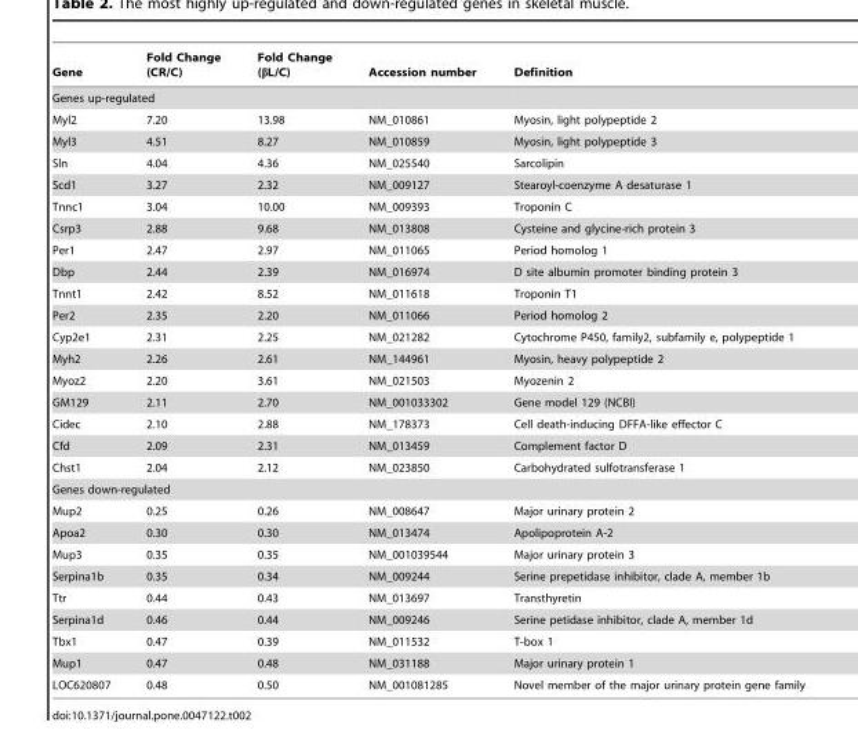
<table><thead><tr><td>Gene</td><td>Fold Change (CR/C)</td><td>Fold Change (βL/C)</td><td>Accession number</td><td>Definition</td></tr></thead><tbody><tr><td colspan="5">Genes up-regulated</td></tr><tr><td>Myl2</td><td>7.20</td><td>13.98</td><td>NM_010861</td><td>Myosin, light polypeptide 2</td></tr><tr><td>Myl3</td><td>4.51</td><td>8.27</td><td>NM_010859</td><td>Myosin, light polypeptide 3</td></tr><tr><td>Sln</td><td>4.04</td><td>4.36</td><td>NM_025540</td><td>Sarcolipin</td></tr><tr><td>Scd1</td><td>3.27</td><td>2.32</td><td>NM_009127</td><td>Stearoyl-coenzyme A desaturase 1</td></tr><tr><td>Tnnc1</td><td>3.04</td><td>10.00</td><td>NM_009393</td><td>Troponin C</td></tr><tr><td>Csrp3</td><td>2.88</td><td>9.68</td><td>NM_013808</td><td>Cysteine and glycine-rich protein 3</td></tr><tr><td>Per1</td><td>2.47</td><td>2.97</td><td>NM_011065</td><td>Period homolog 1</td></tr><tr><td>Dbp</td><td>2.44</td><td>2.39</td><td>NM_016974</td><td>D site albumin promoter binding protein 3</td></tr><tr><td>Tnnt1</td><td>2.42</td><td>8.52</td><td>NM_011618</td><td>Troponin T1</td></tr><tr><td>Per2</td><td>2.35</td><td>2.20</td><td>NM_011066</td><td>Period homolog 2</td></tr><tr><td>Cyp2e1</td><td>2.31</td><td>2.25</td><td>NM_021282</td><td>Cytochrome P450, family2, subfamily e, polypeptide 1</td></tr><tr><td>Myh2</td><td>2.26</td><td>2.61</td><td>NM_144961</td><td>Myosin, heavy polypeptide 2</td></tr><tr><td>Myoz2</td><td>2.20</td><td>3.61</td><td>NM_021503</td><td>Myozenin 2</td></tr><tr><td>GM129</td><td>2.11</td><td>2.70</td><td>NM_001033302</td><td>Gene model 129 (NCBI)</td></tr><tr><td>Cidec</td><td>2.10</td><td>2.88</td><td>NM_178373</td><td>Cell death-inducing DFFA-like effector C</td></tr><tr><td>Cfd</td><td>2.09</td><td>2.31</td><td>NM_013459</td><td>Complement factor D</td></tr><tr><td>Chst1</td><td>2.04</td><td>2.12</td><td>NM_023850</td><td>Carbohydrated sulfotransferase 1</td></tr><tr><td colspan="5">Genes down-regulated</td></tr><tr><td>Mup2</td><td>0.25</td><td>0.26</td><td>NM_008647</td><td>Major urinary protein 2</td></tr><tr><td>Apoa2</td><td>0.30</td><td>0.30</td><td>NM_013474</td><td>Apolipoprotein A-2</td></tr><tr><td>Mup3</td><td>0.35</td><td>0.35</td><td>NM_001039544</td><td>Major urinary protein 3</td></tr><tr><td>Serpina1b</td><td>0.35</td><td>0.34</td><td>NM_009244</td><td>Serine prepetidase inhibitor, clade A, member 1b</td></tr><tr><td>Ttr</td><td>0.44</td><td>0.43</td><td>NM_013697</td><td>Transthyretin</td></tr><tr><td>Serpina1d</td><td>0.46</td><td>0.44</td><td>NM_009246</td><td>Serine petidase inhibitor, clade A, member 1d</td></tr><tr><td>Tbx1</td><td>0.47</td><td>0.39</td><td>NM_011532</td><td>T-box 1</td></tr><tr><td>Mup1</td><td>0.47</td><td>0.48</td><td>NM_031188</td><td>Major urinary protein 1</td></tr><tr><td>LOC620807</td><td>0.48</td><td>0.50</td><td>NM_001081285</td><td>Novel member of the major urinary protein gene family</td></tr></tbody></table>